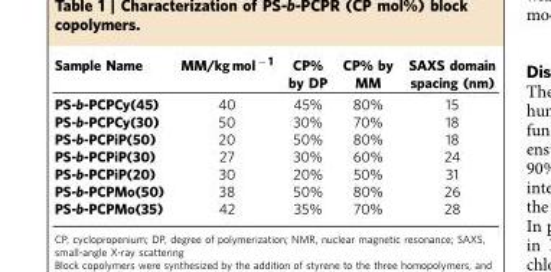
<table><thead><tr><td>Sample Name</td><td>MM/kg mol <sup>− 1</sup></td><td>CP% by DP</td><td>CP% by MM</td><td>SAXS domain spacing (nm)</td></tr></thead><tbody><tr><td>PS-b-PCPCy(45)</td><td>40</td><td>45%</td><td>80%</td><td>15</td></tr><tr><td>PS-b-PCPCy(30)</td><td>50</td><td>30%</td><td>70%</td><td>18</td></tr><tr><td>PS-b-PCPiP(50)</td><td>20</td><td>50%</td><td>80%</td><td>18</td></tr><tr><td>PS-b-PCPiP(30)</td><td>27</td><td>30%</td><td>60%</td><td>24</td></tr><tr><td>PS-b-PCPiP(20)</td><td>30</td><td>20%</td><td>50%</td><td>31</td></tr><tr><td>PS-b-PCPMo(50)</td><td>38</td><td>50%</td><td>80%</td><td>26</td></tr><tr><td>PS-b-PCPMo(35)</td><td>42</td><td>35%</td><td>70%</td><td>28</td></tr></tbody></table>